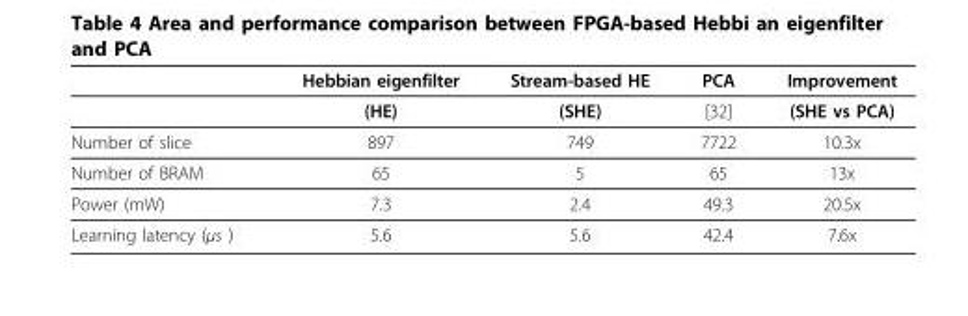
<table><thead><tr><td></td><td>Hebbian eigenfilter</td><td>Stream-based HE</td><td>PCA</td><td>Improvement</td></tr></thead><tbody><tr><td></td><td>(HE)</td><td>(SHE)</td><td>[32]</td><td>(SHE vs PCA)</td></tr><tr><td>Number of slice</td><td>897</td><td>749</td><td>7722</td><td>10.3x</td></tr><tr><td>Number of BRAM</td><td>65</td><td>5</td><td>65</td><td>13x</td></tr><tr><td>Power (mW)</td><td>7.3</td><td>2.4</td><td>49.3</td><td>20.5x</td></tr><tr><td>Learning latency (μs )</td><td>5.6</td><td>5.6</td><td>42.4</td><td>7.6x</td></tr></tbody></table>